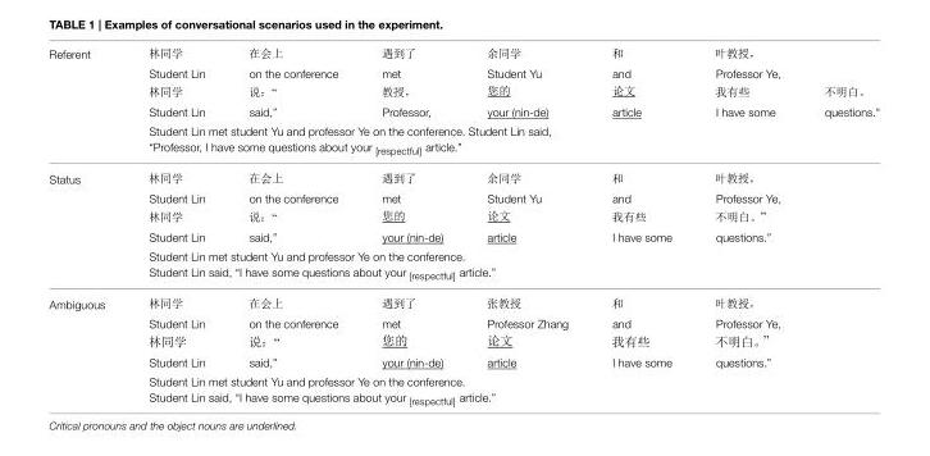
<table><tbody><tr><td colspan="8">Referent</td></tr><tr><td></td><td>Student Lin</td><td>on the conference</td><td>met</td><td>Student Yu</td><td>and</td><td>Professor Ye,</td><td></td></tr><tr><td></td><td>Student Lin</td><td>said,”</td><td>Professor,</td><td>your (nin-de)</td><td>article</td><td>I have some</td><td>questions.&quot;</td></tr><tr><td></td><td colspan="7">Student Lin met student Yu and professor Ye on the conference. Student Lin said, “Professor, I have some questions about your <sub>[respectful]</sub> article.”</td></tr><tr><td colspan="8">Status</td></tr><tr><td></td><td>Student Lin</td><td>on the conference</td><td>met</td><td>Student Yu</td><td>and</td><td>Professor Ye,</td><td></td></tr><tr><td></td><td>Student Lin</td><td>said,”</td><td>your (nin-de)</td><td>article</td><td>I have some</td><td>questions.”</td><td></td></tr><tr><td></td><td colspan="7">Student Lin met student Yu and professor Ye on the conference. Student Lin said, “I have some questions about your <sub>[respectful]</sub> article.”</td></tr><tr><td colspan="8">Ambiguous</td></tr><tr><td></td><td>Student Lin</td><td>on the conference</td><td>met</td><td>Professor Zhang</td><td>and</td><td>Professor Ye,</td><td></td></tr><tr><td></td><td>Student Lin</td><td>said,”</td><td>your (nin-de)</td><td>article</td><td>I have some</td><td>questions.”</td><td></td></tr><tr><td></td><td colspan="7">Student Lin met student Yu and professor Ye on the conference. Student Lin said, “I have some questions about your <sub>[respectful]</sub> article.”</td></tr></tbody></table>